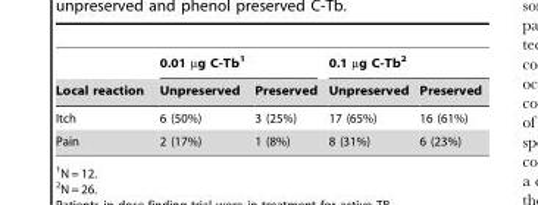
<table><thead><tr><td rowspan="2">Local reaction</td><td colspan="2">0.01 µg C-Tb<sup>1</sup></td><td colspan="2">0.1 µg C-Tb<sup>2</sup></td></tr><tr><td>Unpreserved</td><td>Preserved</td><td>Unpreserved</td><td>Preserved</td></tr></thead><tbody><tr><td>Itch</td><td>6 (50%)</td><td>3 (25%)</td><td>17 (65%)</td><td>16 (61%)</td></tr><tr><td>Pain</td><td>2 (17%)</td><td>1 (8%)</td><td>8 (31%)</td><td>6 (23%)</td></tr></tbody></table>